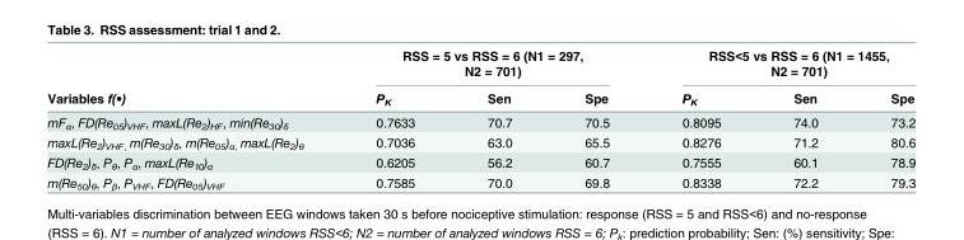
<table><thead><tr><td rowspan="2">Variables f(•)</td><td colspan="3">RSS = 5 vs RSS = 6 (N1 = 297, N2 = 701)</td><td colspan="3">RSS&lt;5 vs RSS = 6 (N1 = 1455, N2 = 701)</td></tr><tr><td>P<sub>K</sub></td><td>Sen</td><td>Spe</td><td>P<sub>K</sub></td><td>Sen</td><td>Spe</td></tr></thead><tbody><tr><td>mF<sub>α</sub>, FD(Re<sub>05</sub>)<sub>VHF</sub>, maxL(Re<sub>2</sub>)<sub>HF</sub>, min(Re<sub>30</sub>)<sub>δ</sub></td><td>0.7633</td><td>70.7</td><td>70.5</td><td>0.8095</td><td>74.0</td><td>73.2</td></tr><tr><td>maxL(Re<sub>2</sub>)<sub>VHF,</sub> m(Re<sub>30</sub>)<sub>δ</sub>, m(Re<sub>05</sub>)<sub>α,</sub> maxL(Re<sub>2</sub>)<sub>θ</sub></td><td>0.7036</td><td>63.0</td><td>65.5</td><td>0.8276</td><td>71.2</td><td>80.6</td></tr><tr><td>FD(Re<sub>2</sub>)<sub>δ</sub>, P<sub>θ</sub>, P<sub>α</sub>, maxL(Re<sub>10</sub>)<sub>α</sub></td><td>0.6205</td><td>56.2</td><td>60.7</td><td>0.7555</td><td>60.1</td><td>78.9</td></tr><tr><td>m(Re<sub>50</sub>)<sub>θ</sub>, P<sub>β</sub>, P<sub>VHF</sub>, FD(Re<sub>05</sub>)<sub>VHF</sub></td><td>0.7585</td><td>70.0</td><td>69.8</td><td>0.8338</td><td>72.2</td><td>79.3</td></tr></tbody></table>